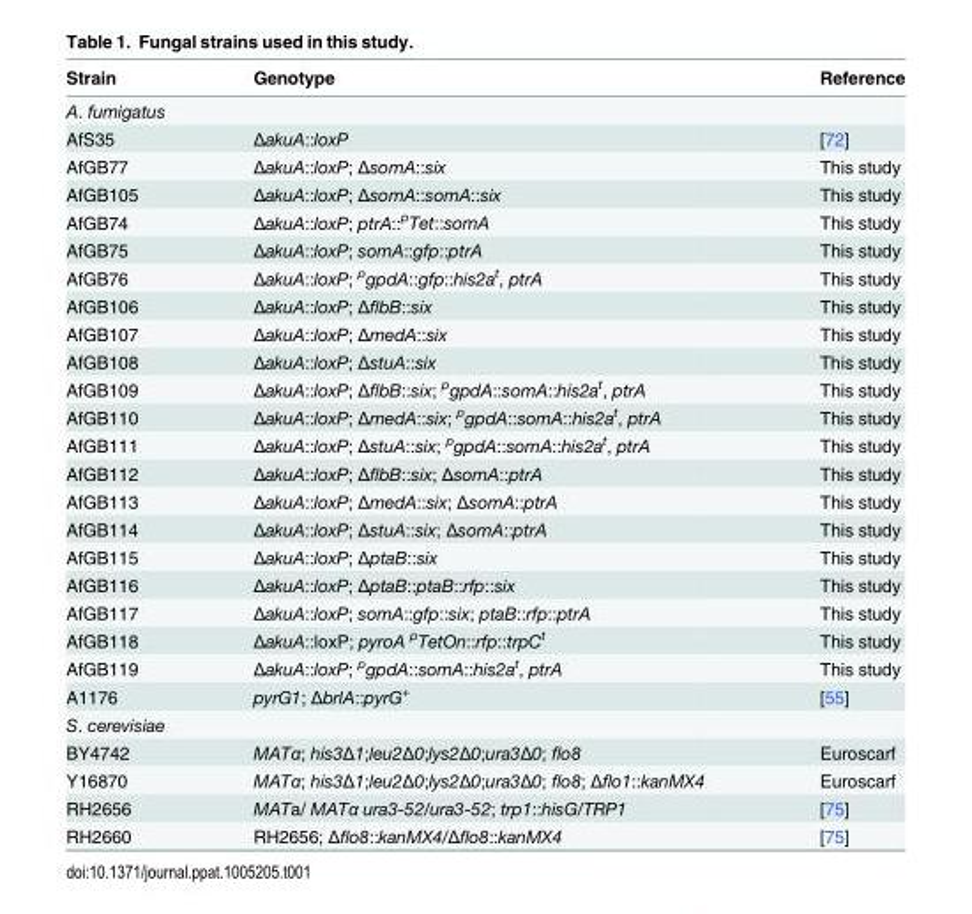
<table><thead><tr><td>Strain</td><td>Genotype</td><td>Reference</td></tr></thead><tbody><tr><td colspan="3">A. fumigatus</td></tr><tr><td>AfS35</td><td>ΔakuA::loxP</td><td>[72]</td></tr><tr><td>AfGB77</td><td>ΔakuA::loxP; ΔsomA::six</td><td>This study</td></tr><tr><td>AfGB105</td><td>ΔakuA::loxP; ΔsomA::somA::six</td><td>This study</td></tr><tr><td>AfGB74</td><td>ΔakuA::loxP; ptrA::<sup>p</sup>Tet::somA</td><td>This study</td></tr><tr><td>AfGB75</td><td>ΔakuA::loxP; somA::gfp::ptrA</td><td>This study</td></tr><tr><td>AfGB76</td><td>ΔakuA::loxP; <sup>p</sup>gpdA::gfp::his2a<sup>t</sup>, ptrA</td><td>This study</td></tr><tr><td>AfGB106</td><td>ΔakuA::loxP; ΔflbB::six</td><td>This study</td></tr><tr><td>AfGB107</td><td>ΔakuA::loxP; ΔmedA::six</td><td>This study</td></tr><tr><td>AfGB108</td><td>ΔakuA::loxP; ΔstuA::six</td><td>This study</td></tr><tr><td>AfGB109</td><td>ΔakuA::loxP; ΔflbB::six; <sup>p</sup>gpdA::somA::his2a<sup>t</sup>, ptrA</td><td>This study</td></tr><tr><td>AfGB110</td><td>ΔakuA::loxP; ΔmedA::six; <sup>p</sup>gpdA::somA::his2a<sup>t</sup>, ptrA</td><td>This study</td></tr><tr><td>AfGB111</td><td>ΔakuA::loxP; ΔstuA::six; <sup>p</sup>gpdA::somA::his2a<sup>t</sup>, ptrA</td><td>This study</td></tr><tr><td>AfGB112</td><td>ΔakuA::loxP; ΔflbB::six; ΔsomA::ptrA</td><td>This study</td></tr><tr><td>AfGB113</td><td>ΔakuA::loxP; ΔmedA::six; ΔsomA::ptrA</td><td>This study</td></tr><tr><td>AfGB114</td><td>ΔakuA::loxP; ΔstuA::six; ΔsomA::ptrA</td><td>This study</td></tr><tr><td>AfGB115</td><td>ΔakuA::loxP; ΔptaB::six</td><td>This study</td></tr><tr><td>AfGB116</td><td>ΔakuA::loxP; ΔptaB::ptaB::rfp::six</td><td>This study</td></tr><tr><td>AfGB117</td><td>ΔakuA::loxP; somA::gfp::six; ptaB::rfp::ptrA</td><td>This study</td></tr><tr><td>AfGB118</td><td>ΔakuA::loxP; pyroA <sup>p</sup>TetOn::rfp::trpC<sup>t</sup></td><td>This study</td></tr><tr><td>AfGB119</td><td>ΔakuA::loxP; <sup>p</sup>gpdA::somA::his2a<sup>t</sup>, ptrA</td><td>This study</td></tr><tr><td>A1176</td><td>pyrG1; ΔbrlA::pyrG<sup>+</sup></td><td>[55]</td></tr><tr><td colspan="3">S. cerevisiae</td></tr><tr><td>BY4742</td><td>MATα; his3Δ1;leu2Δ0;lys2Δ0;ura3Δ0; flo8</td><td>Euroscarf</td></tr><tr><td>Y16870</td><td>MATα; his3Δ1;leu2Δ0;lys2Δ0;ura3Δ0; flo8; Δflo1::kanMX4</td><td>Euroscarf</td></tr><tr><td>RH2656</td><td>MATa/ MATα ura3-52/ura3-52; trp1::hisG/TRP1</td><td>[75]</td></tr><tr><td>RH2660</td><td>RH2656; Δflo8::kanMX4/Δflo8::kanMX4</td><td>[75]</td></tr></tbody></table>